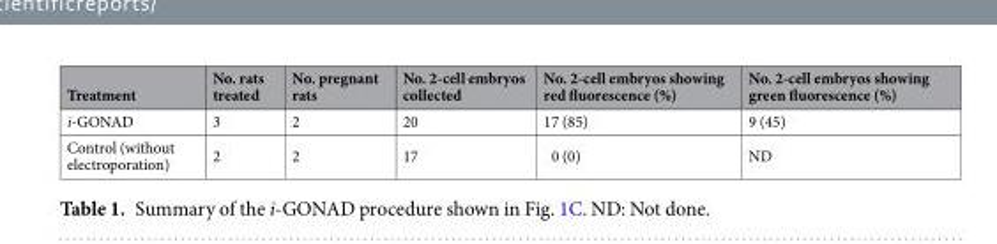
<table><thead><tr><td>Treatment</td><td>No. rats treated</td><td>No. pregnant rats</td><td>No. 2-cell embryos collected</td><td>No. 2-cell embryos showing red fluorescence (%)</td><td>No. 2-cell embryos showing green fluorescence (%)</td></tr></thead><tbody><tr><td>i-GONAD</td><td>3</td><td>2</td><td>20</td><td>17 (85)</td><td>9 (45)</td></tr><tr><td>Control (without electroporation)</td><td>2</td><td>2</td><td>17</td><td>0 (0)</td><td>ND</td></tr></tbody></table>